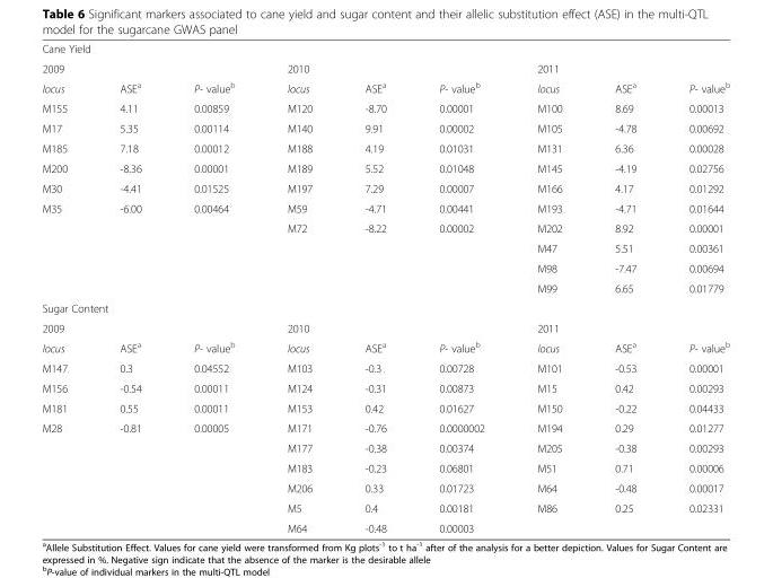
<table><tbody><tr><td colspan="9">Cane Yield</td></tr><tr><td colspan="3">2009</td><td colspan="3">2010</td><td colspan="3">2011</td></tr><tr><td>locus</td><td>ASE<sup>a</sup></td><td>P- value<sup>b</sup></td><td>locus</td><td>ASE<sup>a</sup></td><td>P- value<sup>b</sup></td><td>locus</td><td>ASE<sup>a</sup></td><td>P- value<sup>b</sup></td></tr><tr><td>M155</td><td>4.11</td><td>0.00859</td><td>M120</td><td>-8.70</td><td>0.00001</td><td>M100</td><td>8.69</td><td>0.00013</td></tr><tr><td>M17</td><td>5.35</td><td>0.00114</td><td>M140</td><td>9.91</td><td>0.00002</td><td>M105</td><td>-4.78</td><td>0.00692</td></tr><tr><td>M185</td><td>7.18</td><td>0.00012</td><td>M188</td><td>4.19</td><td>0.01031</td><td>M131</td><td>6.36</td><td>0.00028</td></tr><tr><td>M200</td><td>-8.36</td><td>0.00001</td><td>M189</td><td>5.52</td><td>0.01048</td><td>M145</td><td>-4.19</td><td>0.02756</td></tr><tr><td>M30</td><td>-4.41</td><td>0.01525</td><td>M197</td><td>7.29</td><td>0.00007</td><td>M166</td><td>4.17</td><td>0.01292</td></tr><tr><td rowspan="5">M35</td><td>-6.00</td><td>0.00464</td><td>M59</td><td>-4.71</td><td>0.00441</td><td>M193</td><td>-4.71</td><td>0.01644</td></tr><tr><td></td><td></td><td>M72</td><td>-8.22</td><td>0.00002</td><td>M202</td><td>8.92</td><td>0.00001</td></tr><tr><td></td><td></td><td></td><td></td><td></td><td>M47</td><td>5.51</td><td>0.00361</td></tr><tr><td></td><td></td><td></td><td></td><td></td><td>M98</td><td>-7.47</td><td>0.00694</td></tr><tr><td></td><td></td><td></td><td></td><td></td><td>M99</td><td>6.65</td><td>0.01779</td></tr><tr><td colspan="9">Sugar Content</td></tr><tr><td colspan="3">2009</td><td colspan="3">2010</td><td colspan="3">2011</td></tr><tr><td>locus</td><td>ASE<sup>a</sup></td><td>P- value<sup>b</sup></td><td>locus</td><td>ASE<sup>a</sup></td><td>P- value<sup>b</sup></td><td>locus</td><td>ASE<sup>a</sup></td><td>P- value<sup>b</sup></td></tr><tr><td>M147</td><td>0.3</td><td>0.04552</td><td>M103</td><td>-0.3</td><td>0.00728</td><td>M101</td><td>-0.53</td><td>0.00001</td></tr><tr><td>M156</td><td>-0.54</td><td>0.00011</td><td>M124</td><td>-0.31</td><td>0.00873</td><td>M15</td><td>0.42</td><td>0.00293</td></tr><tr><td>M181</td><td>0.55</td><td>0.00011</td><td>M153</td><td>0.42</td><td>0.01627</td><td>M150</td><td>-0.22</td><td>0.04433</td></tr><tr><td rowspan="6">M28</td><td>-0.81</td><td>0.00005</td><td>M171</td><td>-0.76</td><td>0.0000002</td><td>M194</td><td>0.29</td><td>0.01277</td></tr><tr><td></td><td></td><td>M177</td><td>-0.38</td><td>0.00374</td><td>M205</td><td>-0.38</td><td>0.00293</td></tr><tr><td></td><td></td><td>M183</td><td>-0.23</td><td>0.06801</td><td>M51</td><td>0.71</td><td>0.00006</td></tr><tr><td></td><td></td><td>M206</td><td>0.33</td><td>0.01723</td><td>M64</td><td>-0.48</td><td>0.00017</td></tr><tr><td></td><td></td><td>M5</td><td>0.4</td><td>0.00181</td><td>M86</td><td>0.25</td><td>0.02331</td></tr><tr><td></td><td></td><td>M64</td><td>-0.48</td><td>0.00003</td><td></td><td></td><td></td></tr></tbody></table>